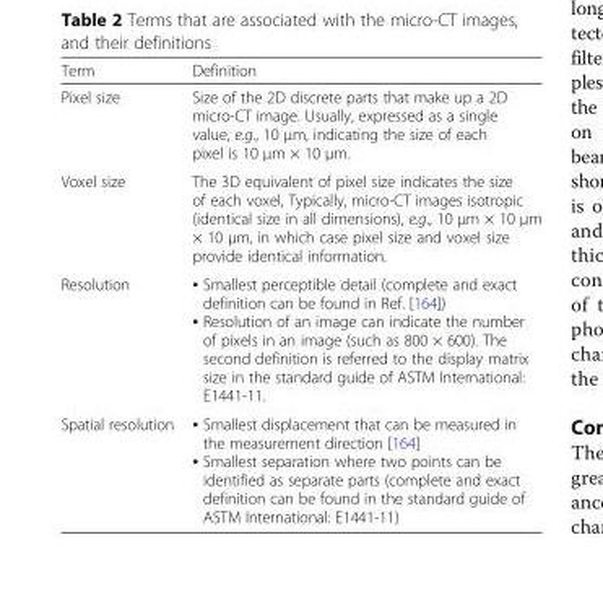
<table><thead><tr><td>Term</td><td>Definition</td></tr></thead><tbody><tr><td>Pixel size</td><td>Size of the 2D discrete parts that make up a 2D micro-CT image. Usually, expressed as a single value, e.g., 10 μm, indicating the size of each pixel is 10 μm × 10 μm.</td></tr><tr><td>Voxel size</td><td>The 3D equivalent of pixel size indicates the size of each voxel, Typically, micro-CT images isotropic (identical size in all dimensions), e.g., 10 μm × 10 μm × 10 μm, in which case pixel size and voxel size provide identical information.</td></tr><tr><td>Resolution</td><td>▪ Smallest perceptible detail (complete and exact definition can be found in Ref. [164]) ▪ Resolution of an image can indicate the number of pixels in an image (such as 800 × 600). The second definition is referred to the display matrix size in the standard guide of ASTM International: E1441-11.</td></tr><tr><td>Spatial resolution</td><td>▪ Smallest displacement that can be measured in the measurement direction [164] ▪ Smallest separation where two points can be identified as separate parts (complete and exact definition can be found in the standard guide of ASTM International: E1441-11)</td></tr></tbody></table>